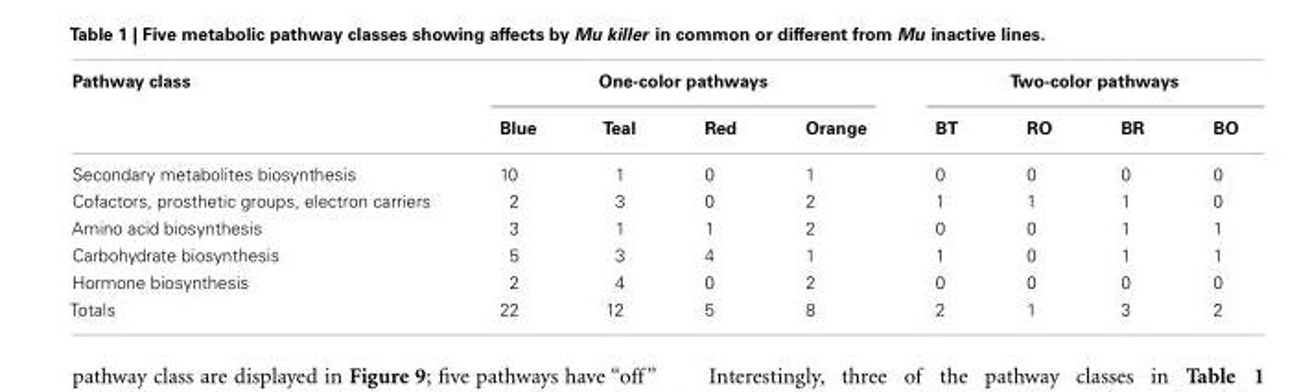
<table><thead><tr><td rowspan="2">Pathway class</td><td colspan="4">One-color pathways</td><td colspan="4">Two-color pathways</td></tr><tr><td>Blue</td><td>Teal</td><td>Red</td><td>Orange</td><td>BT</td><td>RO</td><td>BR</td><td>BO</td></tr></thead><tbody><tr><td>Secondary metabolites biosynthesis</td><td>10</td><td>1</td><td>0</td><td>1</td><td>0</td><td>0</td><td>0</td><td>0</td></tr><tr><td>Cofactors, prosthetic groups, electron carriers</td><td>2</td><td>3</td><td>0</td><td>2</td><td>1</td><td>1</td><td>1</td><td>0</td></tr><tr><td>Amino acid biosynthesis</td><td>3</td><td>1</td><td>1</td><td>2</td><td>0</td><td>0</td><td>1</td><td>1</td></tr><tr><td>Carbohydrate biosynthesis</td><td>5</td><td>3</td><td>4</td><td>1</td><td>1</td><td>0</td><td>1</td><td>1</td></tr><tr><td>Hormone biosynthesis</td><td>2</td><td>4</td><td>0</td><td>2</td><td>0</td><td>0</td><td>0</td><td>0</td></tr><tr><td>Totals</td><td>22</td><td>12</td><td>5</td><td>8</td><td>2</td><td>1</td><td>3</td><td>2</td></tr></tbody></table>